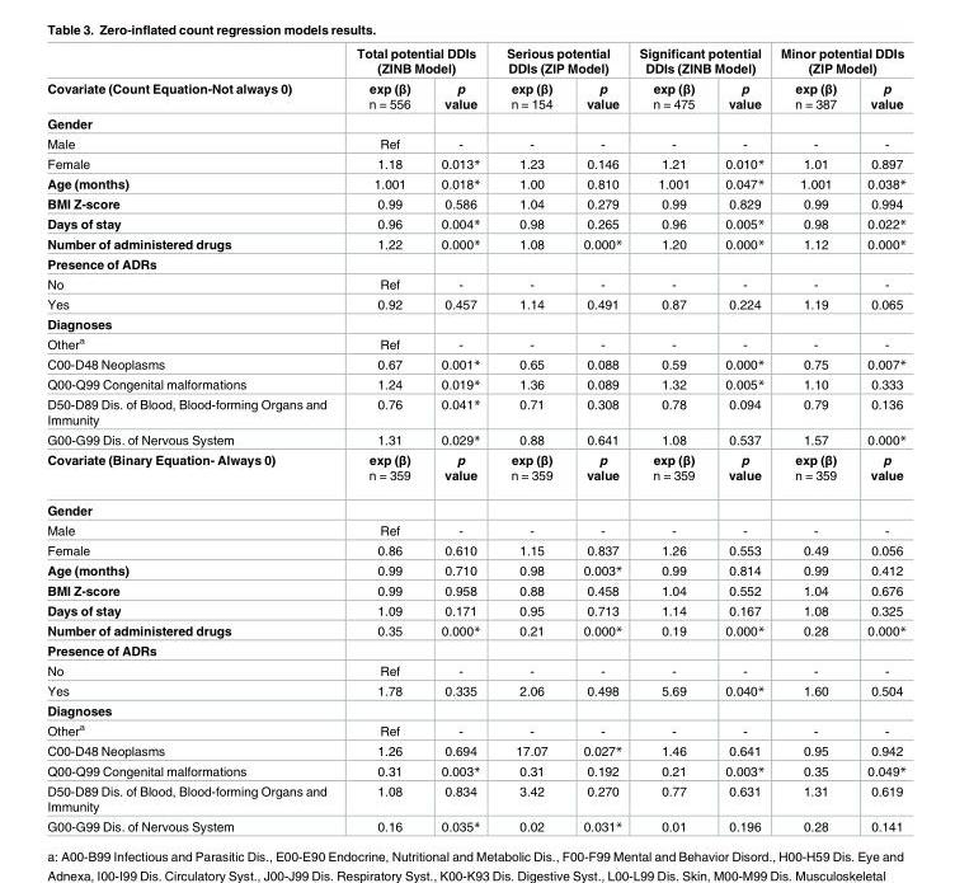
<table><thead><tr><td rowspan="2">Covariate (Count Equation-Not always 0)</td><td colspan="2">Total potential DDIs (ZINB Model)</td><td colspan="2">Serious potential DDIs (ZIP Model)</td><td colspan="2">Significant potential DDIs (ZINB Model)</td><td colspan="2">Minor potential DDIs (ZIP Model)</td></tr><tr><td>exp (β) n = 556</td><td>p value</td><td>exp (β) n = 154</td><td>p value</td><td>exp (β) n = 475</td><td>p value</td><td>exp (β) n = 387</td><td>p value</td></tr></thead><tbody><tr><td colspan="9">Gender</td></tr><tr><td>Male</td><td>Ref</td><td>-</td><td>-</td><td>-</td><td>-</td><td>-</td><td>-</td><td>-</td></tr><tr><td>Female</td><td>1.18</td><td>0.013*</td><td>1.23</td><td>0.146</td><td>1.21</td><td>0.010*</td><td>1.01</td><td>0.897</td></tr><tr><td>Age (months)</td><td>1.001</td><td>0.018*</td><td>1.00</td><td>0.810</td><td>1.001</td><td>0.047*</td><td>1.001</td><td>0.038*</td></tr><tr><td>BMI Z-score</td><td>0.99</td><td>0.586</td><td>1.04</td><td>0.279</td><td>0.99</td><td>0.829</td><td>0.99</td><td>0.994</td></tr><tr><td>Days of stay</td><td>0.96</td><td>0.004*</td><td>0.98</td><td>0.265</td><td>0.96</td><td>0.005*</td><td>0.98</td><td>0.022*</td></tr><tr><td>Number of administered drugs</td><td>1.22</td><td>0.000*</td><td>1.08</td><td>0.000*</td><td>1.20</td><td>0.000*</td><td>1.12</td><td>0.000*</td></tr><tr><td colspan="9">Presence of ADRs</td></tr><tr><td>No</td><td>Ref</td><td>-</td><td>-</td><td>-</td><td>-</td><td>-</td><td>-</td><td>-</td></tr><tr><td>Yes</td><td>0.92</td><td>0.457</td><td>1.14</td><td>0.491</td><td>0.87</td><td>0.224</td><td>1.19</td><td>0.065</td></tr><tr><td colspan="9">Diagnoses</td></tr><tr><td>Other<sup>a</sup></td><td>Ref</td><td>-</td><td>-</td><td>-</td><td>-</td><td>-</td><td>-</td><td>-</td></tr><tr><td>C00-D48 Neoplasms</td><td>0.67</td><td>0.001*</td><td>0.65</td><td>0.088</td><td>0.59</td><td>0.000*</td><td>0.75</td><td>0.007*</td></tr><tr><td>Q00-Q99 Congenital malformations</td><td>1.24</td><td>0.019*</td><td>1.36</td><td>0.089</td><td>1.32</td><td>0.005*</td><td>1.10</td><td>0.333</td></tr><tr><td>D50-D89 Dis. of Blood, Blood-forming Organs and Immunity</td><td>0.76</td><td>0.041*</td><td>0.71</td><td>0.308</td><td>0.78</td><td>0.094</td><td>0.79</td><td>0.136</td></tr><tr><td>G00-G99 Dis. of Nervous System</td><td>1.31</td><td>0.029*</td><td>0.88</td><td>0.641</td><td>1.08</td><td>0.537</td><td>1.57</td><td>0.000*</td></tr><tr><td>Covariate (Binary Equation- Always 0)</td><td>exp (β) n = 359</td><td>p value</td><td>exp (β) n = 359</td><td>p value</td><td>exp (β) n = 359</td><td>p value</td><td>exp (β) n = 359</td><td>p value</td></tr><tr><td colspan="9">Gender</td></tr><tr><td>Male</td><td>Ref</td><td>-</td><td>-</td><td>-</td><td>-</td><td>-</td><td>-</td><td>-</td></tr><tr><td>Female</td><td>0.86</td><td>0.610</td><td>1.15</td><td>0.837</td><td>1.26</td><td>0.553</td><td>0.49</td><td>0.056</td></tr><tr><td>Age (months)</td><td>0.99</td><td>0.710</td><td>0.98</td><td>0.003*</td><td>0.99</td><td>0.814</td><td>0.99</td><td>0.412</td></tr><tr><td>BMI Z-score</td><td>0.99</td><td>0.958</td><td>0.88</td><td>0.458</td><td>1.04</td><td>0.552</td><td>1.04</td><td>0.676</td></tr><tr><td>Days of stay</td><td>1.09</td><td>0.171</td><td>0.95</td><td>0.713</td><td>1.14</td><td>0.167</td><td>1.08</td><td>0.325</td></tr><tr><td>Number of administered drugs</td><td>0.35</td><td>0.000*</td><td>0.21</td><td>0.000*</td><td>0.19</td><td>0.000*</td><td>0.28</td><td>0.000*</td></tr><tr><td colspan="9">Presence of ADRs</td></tr><tr><td>No</td><td>Ref</td><td>-</td><td>-</td><td>-</td><td>-</td><td>-</td><td>-</td><td>-</td></tr><tr><td>Yes</td><td>1.78</td><td>0.335</td><td>2.06</td><td>0.498</td><td>5.69</td><td>0.040*</td><td>1.60</td><td>0.504</td></tr><tr><td colspan="9">Diagnoses</td></tr><tr><td>Other<sup>a</sup></td><td>Ref</td><td>-</td><td>-</td><td>-</td><td>-</td><td>-</td><td>-</td><td>-</td></tr><tr><td>C00-D48 Neoplasms</td><td>1.26</td><td>0.694</td><td>17.07</td><td>0.027*</td><td>1.46</td><td>0.641</td><td>0.95</td><td>0.942</td></tr><tr><td>Q00-Q99 Congenital malformations</td><td>0.31</td><td>0.003*</td><td>0.31</td><td>0.192</td><td>0.21</td><td>0.003*</td><td>0.35</td><td>0.049*</td></tr><tr><td>D50-D89 Dis. of Blood, Blood-forming Organs and Immunity</td><td>1.08</td><td>0.834</td><td>3.42</td><td>0.270</td><td>0.77</td><td>0.631</td><td>1.31</td><td>0.619</td></tr><tr><td>G00-G99 Dis. of Nervous System</td><td>0.16</td><td>0.035*</td><td>0.02</td><td>0.031*</td><td>0.01</td><td>0.196</td><td>0.28</td><td>0.141</td></tr></tbody></table>